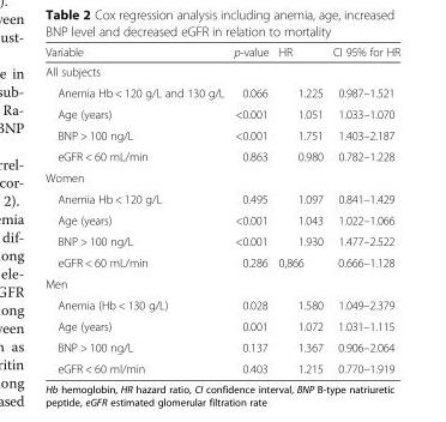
<table><thead><tr><td>Variable</td><td>p-value</td><td>HR</td><td>CI 95% for HR</td></tr></thead><tbody><tr><td colspan="4">All subjects</td></tr><tr><td>Anemia Hb &lt; 120 g/L and 130 g/L</td><td>0.066</td><td>1.225</td><td>0.987–1.521</td></tr><tr><td>Age (years)</td><td>&lt;0.001</td><td>1.051</td><td>1.033–1.070</td></tr><tr><td>BNP &gt; 100 ng/L</td><td>&lt;0.001</td><td>1.751</td><td>1.403–2.187</td></tr><tr><td>eGFR &lt; 60 mL/min</td><td>0.863</td><td>0.980</td><td>0.782–1.228</td></tr><tr><td colspan="4">Women</td></tr><tr><td>Anemia Hb &lt; 120 g/L</td><td>0.495</td><td>1.097</td><td>0.841–1.429</td></tr><tr><td>Age (years)</td><td>&lt;0.001</td><td>1.043</td><td>1.022–1.066</td></tr><tr><td>BNP &gt; 100 ng/L</td><td>&lt;0.001</td><td>1.930</td><td>1.477–2.522</td></tr><tr><td>eGFR &lt; 60 mL/min</td><td>0.286</td><td>0,866</td><td>0.666–1.128</td></tr><tr><td colspan="4">Men</td></tr><tr><td>Anemia (Hb &lt; 130 g/L)</td><td>0.028</td><td>1.580</td><td>1.049–2.379</td></tr><tr><td>Age (years)</td><td>0.001</td><td>1.072</td><td>1.031–1.115</td></tr><tr><td>BNP &gt; 100 ng/L</td><td>0.137</td><td>1.367</td><td>0.906–2.064</td></tr><tr><td>eGFR &lt; 60 ml/min</td><td>0.403</td><td>1.215</td><td>0.770–1.919</td></tr></tbody></table>